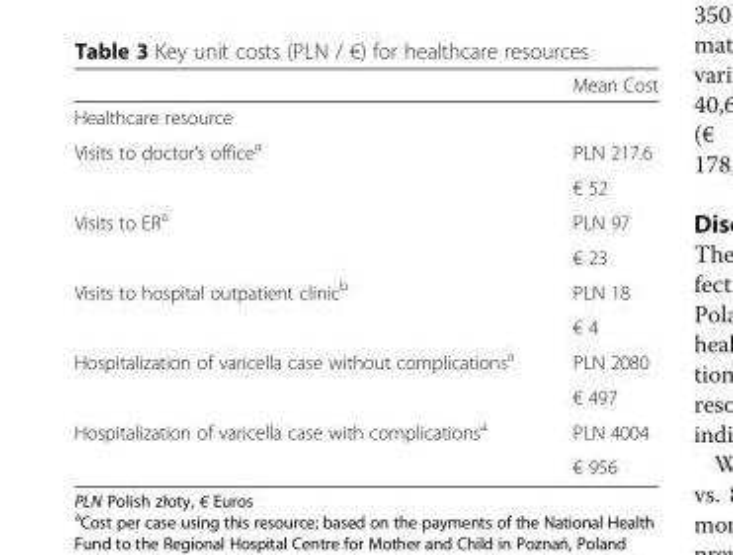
<table><thead><tr><td></td><td>Mean Cost</td></tr></thead><tbody><tr><td colspan="2">Healthcare resource</td></tr><tr><td rowspan="2">Visits to doctor’s office<sup>a</sup></td><td>PLN 217.6</td></tr><tr><td>€ 52</td></tr><tr><td rowspan="2">Visits to ER<sup>a</sup></td><td>PLN 97</td></tr><tr><td>€ 23</td></tr><tr><td rowspan="2">Visits to hospital outpatient clinic<sup>b</sup></td><td>PLN 18</td></tr><tr><td>€ 4</td></tr><tr><td rowspan="2">Hospitalization of varicella case without complications<sup>a</sup></td><td>PLN 2080</td></tr><tr><td>€ 497</td></tr><tr><td rowspan="2">Hospitalization of varicella case with complications<sup>a</sup></td><td>PLN 4004</td></tr><tr><td>€ 956</td></tr></tbody></table>